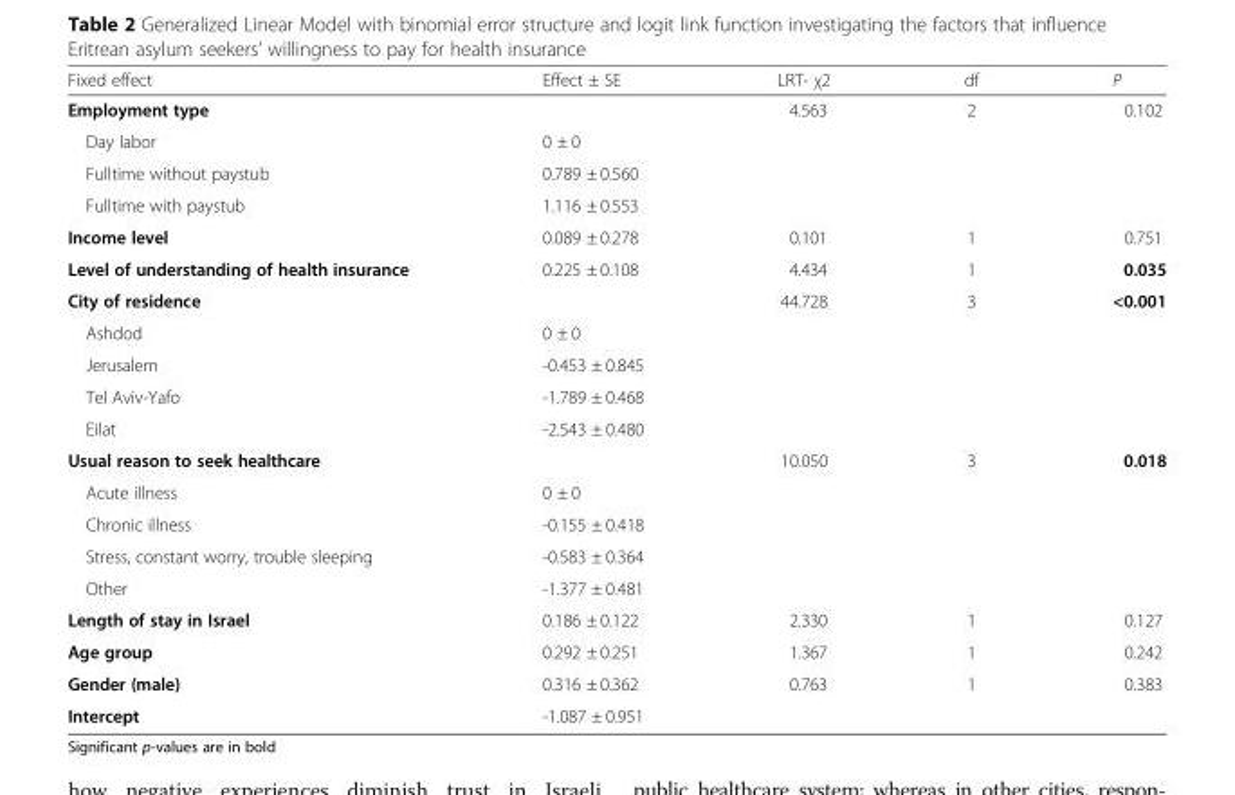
<table><thead><tr><td>Fixed effect</td><td>Effect ± SE</td><td>LRT- χ2</td><td>df</td><td>P</td></tr></thead><tbody><tr><td>Employment type</td><td></td><td>4.563</td><td>2</td><td>0.102</td></tr><tr><td>Day labor</td><td>0 ± 0</td><td></td><td></td><td></td></tr><tr><td>Fulltime without paystub</td><td>0.789 ± 0.560</td><td></td><td></td><td></td></tr><tr><td>Fulltime with paystub</td><td>1.116 ± 0.553</td><td></td><td></td><td></td></tr><tr><td>Income level</td><td>0.089 ± 0.278</td><td>0.101</td><td>1</td><td>0.751</td></tr><tr><td>Level of understanding of health insurance</td><td>0.225 ± 0.108</td><td>4.434</td><td>1</td><td>0.035</td></tr><tr><td>City of residence</td><td></td><td>44.728</td><td>3</td><td>&lt;0.001</td></tr><tr><td>Ashdod</td><td>0 ± 0</td><td></td><td></td><td></td></tr><tr><td>Jerusalem</td><td>-0.453 ± 0.845</td><td></td><td></td><td></td></tr><tr><td>Tel Aviv-Yafo</td><td>-1.789 ± 0.468</td><td></td><td></td><td></td></tr><tr><td>Eilat</td><td>-2.543 ± 0.480</td><td></td><td></td><td></td></tr><tr><td>Usual reason to seek healthcare</td><td></td><td>10.050</td><td>3</td><td>0.018</td></tr><tr><td>Acute illness</td><td>0 ± 0</td><td></td><td></td><td></td></tr><tr><td>Chronic illness</td><td>-0.155 ± 0.418</td><td></td><td></td><td></td></tr><tr><td>Stress, constant worry, trouble sleeping</td><td>-0.583 ± 0.364</td><td></td><td></td><td></td></tr><tr><td>Other</td><td>-1.377 ± 0.481</td><td></td><td></td><td></td></tr><tr><td>Length of stay in Israel</td><td>0.186 ± 0.122</td><td>2.330</td><td>1</td><td>0.127</td></tr><tr><td>Age group</td><td>0.292 ± 0.251</td><td>1.367</td><td>1</td><td>0.242</td></tr><tr><td>Gender (male)</td><td>0.316 ± 0.362</td><td>0.763</td><td>1</td><td>0.383</td></tr><tr><td>Intercept</td><td>-1.087 ± 0.951</td><td></td><td></td><td></td></tr></tbody></table>